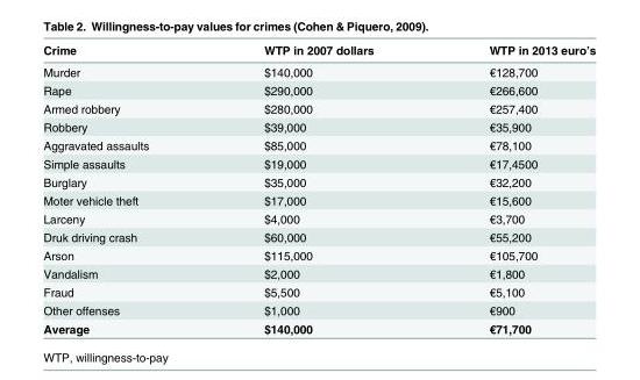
<table><thead><tr><td>Crime</td><td>WTP in 2007 dollars</td><td>WTP in 2013 euro’s</td></tr></thead><tbody><tr><td>Murder</td><td>$140,000</td><td>€128,700</td></tr><tr><td>Rape</td><td>$290,000</td><td>€266,600</td></tr><tr><td>Armed robbery</td><td>$280,000</td><td>€257,400</td></tr><tr><td>Robbery</td><td>$39,000</td><td>€35,900</td></tr><tr><td>Aggravated assaults</td><td>$85,000</td><td>€78,100</td></tr><tr><td>Simple assaults</td><td>$19,000</td><td>€17,4500</td></tr><tr><td>Burglary</td><td>$35,000</td><td>€32,200</td></tr><tr><td>Moter vehicle theft</td><td>$17,000</td><td>€15,600</td></tr><tr><td>Larceny</td><td>$4,000</td><td>€3,700</td></tr><tr><td>Druk driving crash</td><td>$60,000</td><td>€55,200</td></tr><tr><td>Arson</td><td>$115,000</td><td>€105,700</td></tr><tr><td>Vandalism</td><td>$2,000</td><td>€1,800</td></tr><tr><td>Fraud</td><td>$5,500</td><td>€5,100</td></tr><tr><td>Other offenses</td><td>$1,000</td><td>€900</td></tr><tr><td>Average</td><td>$140,000</td><td>€71,700</td></tr></tbody></table>